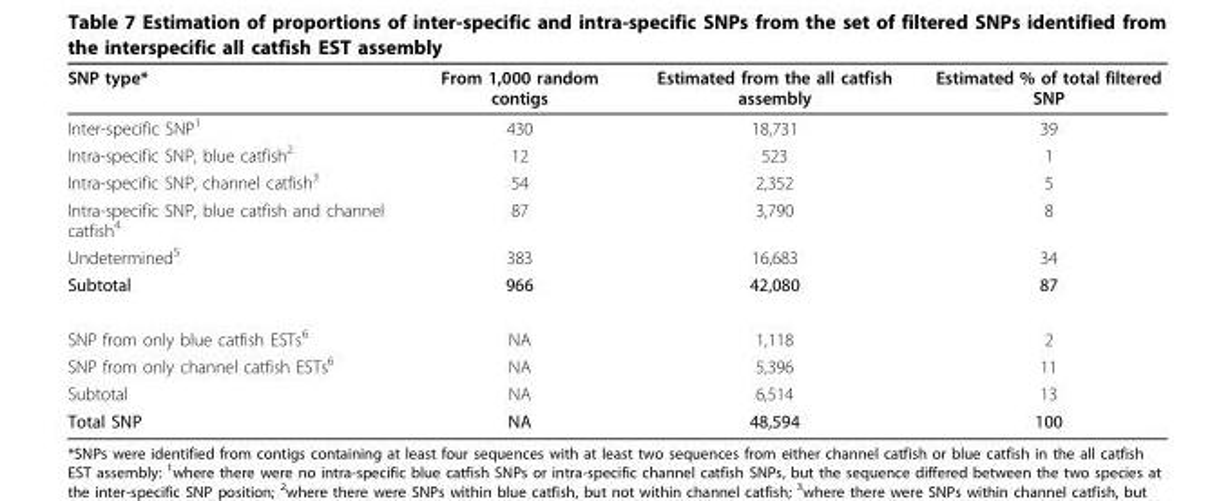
<table><thead><tr><td>SNP type*</td><td>From 1,000 random contigs</td><td>Estimated from the all catfish assembly</td><td>Estimated % of total filtered SNP</td></tr></thead><tbody><tr><td>Inter-specific SNP<sup>1</sup></td><td>430</td><td>18,731</td><td>39</td></tr><tr><td>Intra-specific SNP, blue catfish<sup>2</sup></td><td>12</td><td>523</td><td>1</td></tr><tr><td>Intra-specific SNP, channel catfish<sup>3</sup></td><td>54</td><td>2,352</td><td>5</td></tr><tr><td>Intra-specific SNP, blue catfish and channel catfish<sup>4</sup></td><td>87</td><td>3,790</td><td>8</td></tr><tr><td>Undetermined<sup>5</sup></td><td>383</td><td>16,683</td><td>34</td></tr><tr><td>Subtotal</td><td>966</td><td>42,080</td><td>87</td></tr><tr><td>SNP from only blue catfish ESTs<sup>6</sup></td><td>NA</td><td>1,118</td><td>2</td></tr><tr><td>SNP from only channel catfish ESTs<sup>6</sup></td><td>NA</td><td>5,396</td><td>11</td></tr><tr><td>Subtotal</td><td>NA</td><td>6,514</td><td>13</td></tr><tr><td>Total SNP</td><td>NA</td><td>48,594</td><td>100</td></tr></tbody></table>